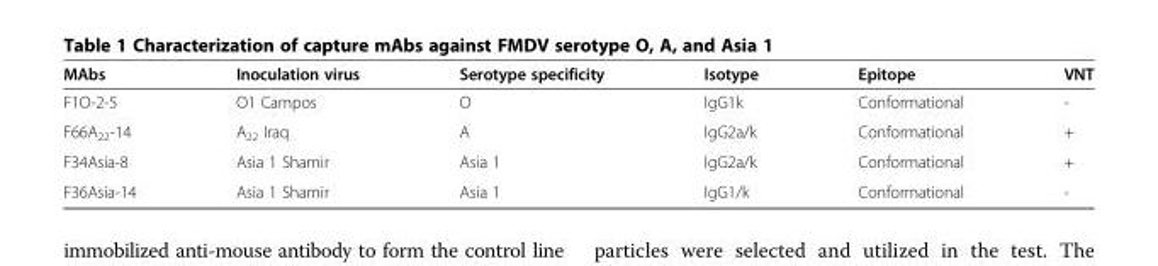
<table><thead><tr><td>MAbs</td><td>Inoculation virus</td><td>Serotype specificity</td><td>Isotype</td><td>Epitope</td><td>VNT</td></tr></thead><tbody><tr><td>F1O-2-5</td><td>O1 Campos</td><td>O</td><td>IgG1k</td><td>Conformational</td><td>-</td></tr><tr><td>F66A<sub>22</sub>-14</td><td>A<sub>22</sub> Iraq</td><td>A</td><td>IgG2a/k</td><td>Conformational</td><td>+</td></tr><tr><td>F34Asia-8</td><td>Asia 1 Shamir</td><td>Asia 1</td><td>IgG2a/k</td><td>Conformational</td><td>+</td></tr><tr><td>F36Asia-14</td><td>Asia 1 Shamir</td><td>Asia 1</td><td>IgG1/k</td><td>Conformational</td><td>-</td></tr></tbody></table>